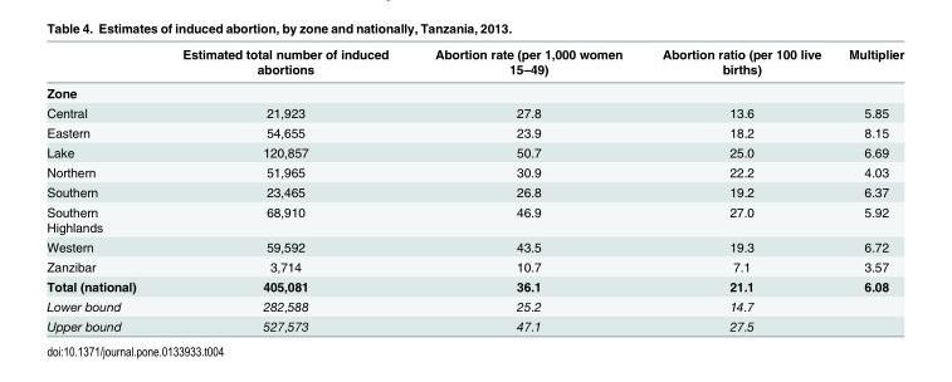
<table><thead><tr><td></td><td>Estimated total number of induced abortions</td><td>Abortion rate (per 1,000 women 15–49)</td><td>Abortion ratio (per 100 live births)</td><td>Multiplier</td></tr></thead><tbody><tr><td colspan="5">Zone</td></tr><tr><td>Central</td><td>21,923</td><td>27.8</td><td>13.6</td><td>5.85</td></tr><tr><td>Eastern</td><td>54,655</td><td>23.9</td><td>18.2</td><td>8.15</td></tr><tr><td>Lake</td><td>120,857</td><td>50.7</td><td>25.0</td><td>6.69</td></tr><tr><td>Northern</td><td>51,965</td><td>30.9</td><td>22.2</td><td>4.03</td></tr><tr><td>Southern</td><td>23,465</td><td>26.8</td><td>19.2</td><td>6.37</td></tr><tr><td>Southern Highlands</td><td>68,910</td><td>46.9</td><td>27.0</td><td>5.92</td></tr><tr><td>Western</td><td>59,592</td><td>43.5</td><td>19.3</td><td>6.72</td></tr><tr><td>Zanzibar</td><td>3,714</td><td>10.7</td><td>7.1</td><td>3.57</td></tr><tr><td>Total (national)</td><td>405,081</td><td>36.1</td><td>21.1</td><td>6.08</td></tr><tr><td>Lower bound</td><td>282,588</td><td>25.2</td><td>14.7</td><td></td></tr><tr><td>Upper bound</td><td>527,573</td><td>47.1</td><td>27.5</td><td></td></tr></tbody></table>